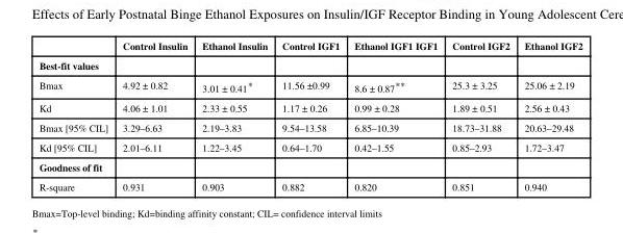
<table><thead><tr><td></td><td>Control Insulin</td><td>Ethanol Insulin</td><td>Control IGF1</td><td>Ethanol IGF1 IGF1</td><td>Control IGF2</td><td>Ethanol IGF2</td></tr></thead><tbody><tr><td colspan="7">Best-fit values</td></tr><tr><td>Bmax</td><td>4.92 ± 0.82</td><td>3.01 ± 0.41*</td><td>11.56 ±0.99</td><td>8.6 ± 0.87**</td><td>25.3 ± 3.25</td><td>25.06 ± 2.19</td></tr><tr><td>Kd</td><td>4.06 ± 1.01</td><td>2.33 ± 0.55</td><td>1.17 ± 0.26</td><td>0.99 ± 0.28</td><td>1.89 ± 0.51</td><td>2.56 ± 0.43</td></tr><tr><td>Bmax [95% CIL]</td><td>3.29–6.63</td><td>2.19–3.83</td><td>9.54–13.58</td><td>6.85–10.39</td><td>18.73–31.88</td><td>20.63–29.48</td></tr><tr><td>Kd [95% CIL]</td><td>2.01–6.11</td><td>1.22–3.45</td><td>0.64–1.70</td><td>0.42–1.55</td><td>0.85–2.93</td><td>1.72–3.47</td></tr><tr><td colspan="7">Goodness of fit</td></tr><tr><td>R-square</td><td>0.931</td><td>0.903</td><td>0.882</td><td>0.820</td><td>0.851</td><td>0.940</td></tr></tbody></table>